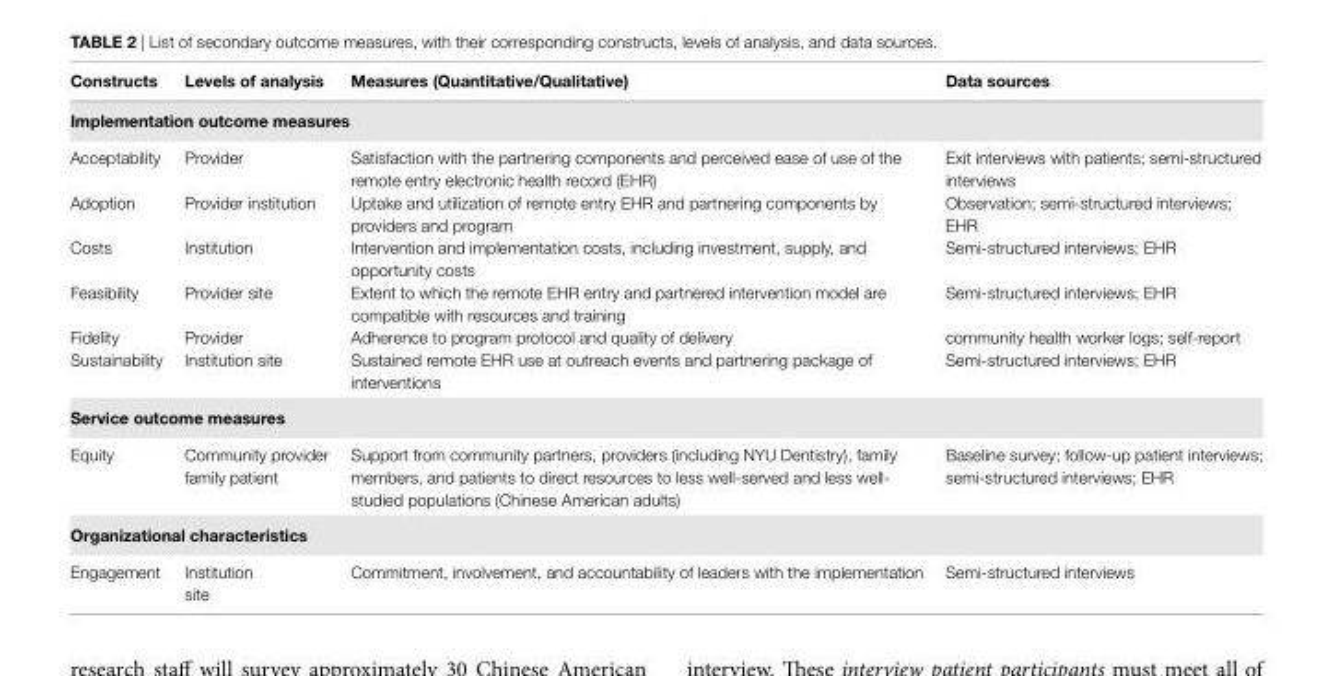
<table><thead><tr><td>constructs</td><td>levels of analysis</td><td>Measures (Quantitative/Qualitative)</td><td>Data sources</td></tr></thead><tbody><tr><td colspan="4">Implementation outcome measures</td></tr><tr><td>Acceptability</td><td>Provider</td><td>Satisfaction with the partnering components and perceived ease of use of the remote entry electronic health record (EHR)</td><td>Exit interviews with patients; semi-structured interviews</td></tr><tr><td>Adoption</td><td>Provider institution</td><td>Uptake and utilization of remote entry EHR and partnering components by providers and program</td><td>Observation; semi-structured interviews; EHR</td></tr><tr><td>Costs</td><td>Institution</td><td>Intervention and implementation costs, including investment, supply, and opportunity costs</td><td>Semi-structured interviews; EHR</td></tr><tr><td>Feasibility</td><td>Provider site</td><td>Extent to which the remote EHR entry and partnered intervention model are compatible with resources and training</td><td>Semi-structured interviews; EHR</td></tr><tr><td>Fidelity</td><td>Provider</td><td>Adherence to program protocol and quality of delivery</td><td>community health worker logs; self-report</td></tr><tr><td>Sustainability</td><td>Institution site</td><td>Sustained remote EHR use at outreach events and partnering package of interventions</td><td>Semi-structured interviews; EHR</td></tr><tr><td colspan="4">service outcome measures</td></tr><tr><td>Equity</td><td>Community provider family patient</td><td>Support from community partners, providers (including NYU Dentistry), family members, and patients to direct resources to less well-served and less well- studied populations (Chinese American adults)</td><td>Baseline survey; follow-up patient interviews; semi-structured interviews; EHR</td></tr><tr><td colspan="4">organizational characteristics</td></tr><tr><td>Engagement</td><td>Institution site</td><td>Commitment, involvement, and accountability of leaders with the implementation</td><td>Semi-structured interviews</td></tr></tbody></table>